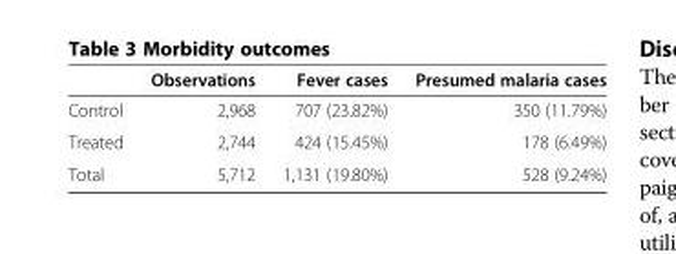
<table><thead><tr><td></td><td>Observations</td><td>Fever cases</td><td>Presumed malaria cases</td></tr></thead><tbody><tr><td>Control</td><td>2,968</td><td>707 (23.82%)</td><td>350 (11.79%)</td></tr><tr><td>Treated</td><td>2,744</td><td>424 (15.45%)</td><td>178 (6.49%)</td></tr><tr><td>Total</td><td>5,712</td><td>1,131 (19.80%)</td><td>528 (9.24%)</td></tr></tbody></table>